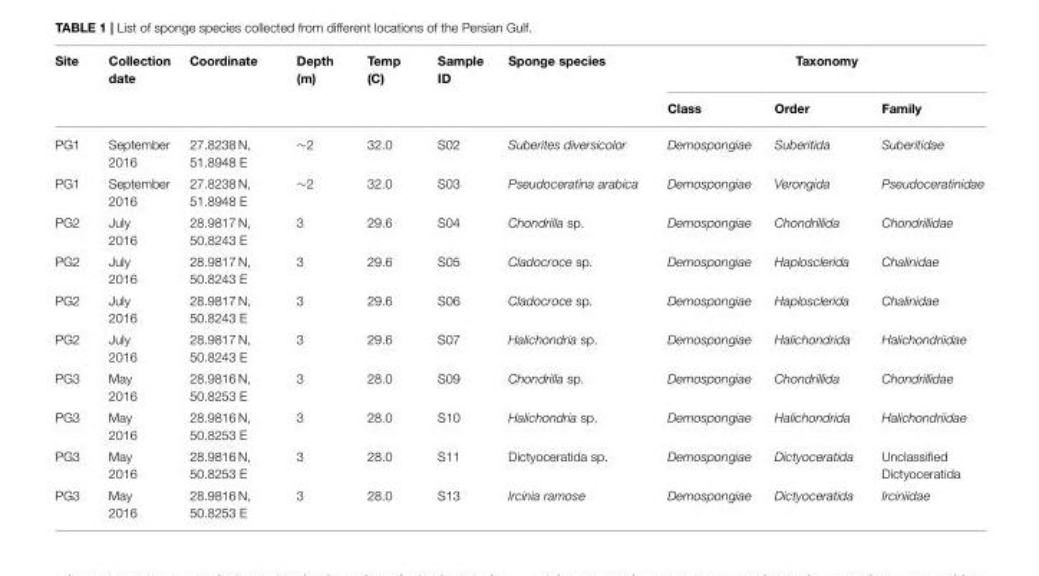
<table><thead><tr><td rowspan="2">Site</td><td rowspan="2">Collection date</td><td rowspan="2">Coordinate</td><td rowspan="2">Depth (m)</td><td rowspan="2">Temp (C)</td><td rowspan="2">Sample ID</td><td rowspan="2">Sponge species</td><td colspan="3">Taxonomy</td></tr><tr><td>Class</td><td>Order</td><td>Family</td></tr></thead><tbody><tr><td>PG1</td><td>September 2016</td><td>27.8238 N, 51.8948 E</td><td>∼2</td><td>32.0</td><td>S02</td><td>Suberites diversicolor</td><td>Demospongiae</td><td>Suberitida</td><td>Suberitidae</td></tr><tr><td>PG1</td><td>September 2016</td><td>27.8238 N, 51.8948 E</td><td>∼2</td><td>32.0</td><td>S03</td><td>Pseudoceratina arabica</td><td>Demospongiae</td><td>Verongida</td><td>Pseudoceratinidae</td></tr><tr><td>PG2</td><td>July 2016</td><td>28.9817 N, 50.8243 E</td><td>3</td><td>29.6</td><td>S04</td><td>Chondrilla sp.</td><td>Demospongiae</td><td>Chondrillida</td><td>Chondrillidae</td></tr><tr><td>PG2</td><td>July 2016</td><td>28.9817 N, 50.8243 E</td><td>3</td><td>29.6</td><td>S05</td><td>Cladocroce sp.</td><td>Demospongiae</td><td>Haplosclerida</td><td>Chalinidae</td></tr><tr><td>PG2</td><td>July 2016</td><td>28.9817 N, 50.8243 E</td><td>3</td><td>29.6</td><td>S06</td><td>Cladocroce sp.</td><td>Demospongiae</td><td>Haplosclerida</td><td>Chalinidae</td></tr><tr><td>PG2</td><td>July 2016</td><td>28.9817 N, 50.8243 E</td><td>3</td><td>29.6</td><td>S07</td><td>Halichondria sp.</td><td>Demospongiae</td><td>Halichondrida</td><td>Halichondriidae</td></tr><tr><td>PG3</td><td>May 2016</td><td>28.9816 N, 50.8253 E</td><td>3</td><td>28.0</td><td>S09</td><td>Chondrilla sp.</td><td>Demospongiae</td><td>Chondrillida</td><td>Chondrillidae</td></tr><tr><td>PG3</td><td>May 2016</td><td>28.9816 N, 50.8253 E</td><td>3</td><td>28.0</td><td>S10</td><td>Halichondria sp.</td><td>Demospongiae</td><td>Halichondrida</td><td>Halichondriidae</td></tr><tr><td>PG3</td><td>May 2016</td><td>28.9816 N, 50.8253 E</td><td>3</td><td>28.0</td><td>S11</td><td>Dictyoceratida sp.</td><td>Demospongiae</td><td>Dictyoceratida</td><td>Unclassified Dictyoceratida</td></tr><tr><td>PG3</td><td>May 2016</td><td>28.9816 N, 50.8253 E</td><td>3</td><td>28.0</td><td>S13</td><td>Ircinia ramose</td><td>Demospongiae</td><td>Dictyoceratida</td><td>Irciniidae</td></tr></tbody></table>